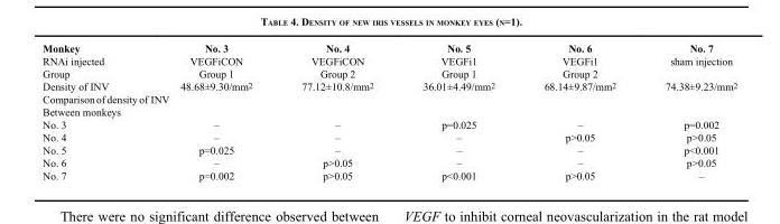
<table><thead><tr><td>Monkey</td><td>No. 3</td><td>No. 4</td><td>No. 5</td><td>No. 6</td><td>No. 7</td></tr></thead><tbody><tr><td>RNAi injected</td><td>VEGFiCON</td><td>VEGFiCON</td><td>VEGFi1</td><td>VEGFi1</td><td>sham injection</td></tr><tr><td>Group</td><td>Group 1</td><td>Group 2</td><td>Group 1</td><td>Group 2</td><td></td></tr><tr><td>Density of INV</td><td>48.68±9.30/mm<sup>2</sup></td><td>77.12±10.8/mm<sup>2</sup></td><td>36.01±4.49/mm<sup>2</sup></td><td>68.14±9.87/mm<sup>2</sup></td><td>74.38±9.23/mm<sup>2</sup></td></tr><tr><td colspan="6">Comparison of density of INV</td></tr><tr><td colspan="6">Between monkeys</td></tr><tr><td>No. 3</td><td>–</td><td>–</td><td>p=0.025</td><td>–</td><td>p=0.002</td></tr><tr><td>No. 4</td><td>–</td><td>–</td><td>–</td><td>p&gt;0.05</td><td>p&gt;0.05</td></tr><tr><td>No. 5</td><td>p=0.025</td><td>–</td><td>–</td><td>–</td><td>p&lt;0.001</td></tr><tr><td>No. 6</td><td>–</td><td>p&gt;0.05</td><td>–</td><td>–</td><td>p&gt;0.05</td></tr><tr><td>No. 7</td><td>p=0.002</td><td>p&gt;0.05</td><td>p&lt;0.001</td><td>p&gt;0.05</td><td>–</td></tr></tbody></table>